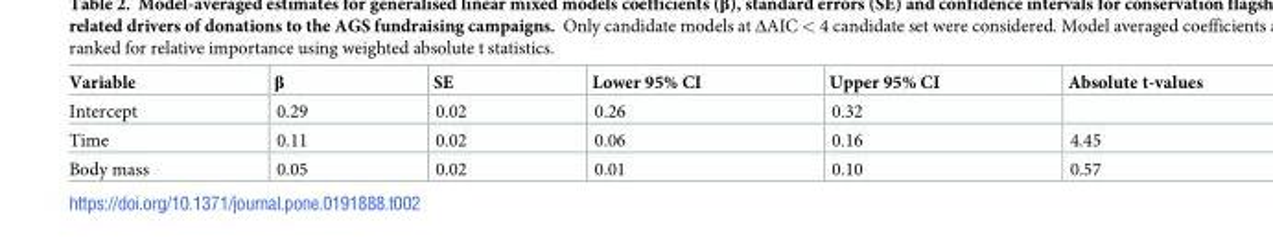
<table><thead><tr><td>Variable</td><td>β</td><td>SE</td><td>Lower 95% CI</td><td>Upper 95% CI</td><td>Absolute t-values</td></tr></thead><tbody><tr><td>Intercept</td><td>0.29</td><td>0.02</td><td>0.26</td><td>0.32</td><td></td></tr><tr><td>Time</td><td>0.11</td><td>0.02</td><td>0.06</td><td>0.16</td><td>4.45</td></tr><tr><td>Body mass</td><td>0.05</td><td>0.02</td><td>0.01</td><td>0.10</td><td>0.57</td></tr></tbody></table>